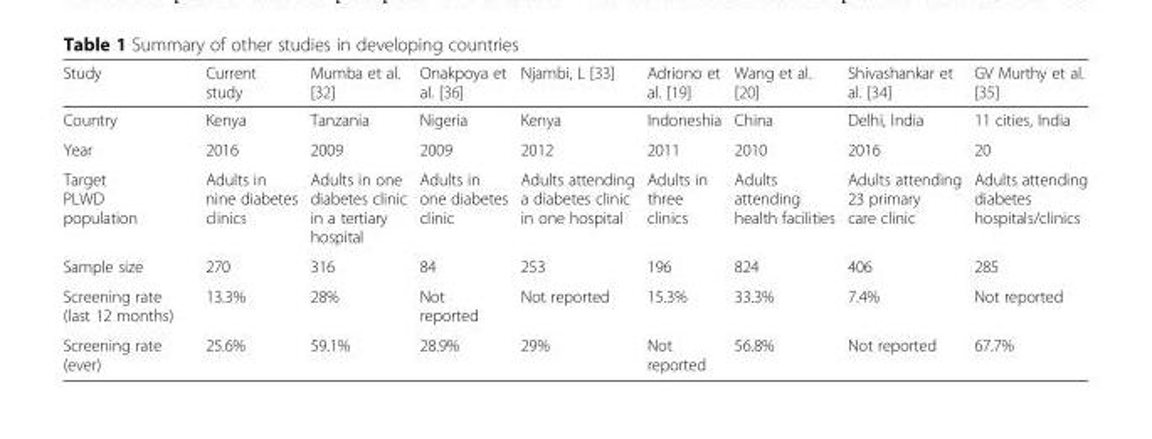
<table><thead><tr><td>Study</td><td>Current study</td><td>Mumba et al. [32]</td><td>Onakpoya et al. [36]</td><td>Njambi, L [33]</td><td>Adriono et al. [19]</td><td>Wang et al. [20]</td><td>Shivashankar et al. [34]</td><td>GV Murthy et al. [35]</td></tr></thead><tbody><tr><td>Country</td><td>Kenya</td><td>Tanzania</td><td>Nigeria</td><td>Kenya</td><td>Indoneshia</td><td>China</td><td>Delhi, India</td><td>11 cities, India</td></tr><tr><td>Year</td><td>2016</td><td>2009</td><td>2009</td><td>2012</td><td>2011</td><td>2010</td><td>2016</td><td>20</td></tr><tr><td>Target PLWD population</td><td>Adults in nine diabetes clinics</td><td>Adults in one diabetes clinic in a tertiary hospital</td><td>Adults in one diabetes clinic</td><td>Adults attending a diabetes clinic in one hospital</td><td>Adults in three clinics</td><td>Adults attending health facilities</td><td>Adults attending 23 primary care clinic</td><td>Adults attending diabetes hospitals/clinics</td></tr><tr><td>Sample size</td><td>270</td><td>316</td><td>84</td><td>253</td><td>196</td><td>824</td><td>406</td><td>285</td></tr><tr><td>Screening rate (last 12 months)</td><td>13.3%</td><td>28%</td><td>Not reported</td><td>Not reported</td><td>15.3%</td><td>33.3%</td><td>7.4%</td><td>Not reported</td></tr><tr><td>Screening rate (ever)</td><td>25.6%</td><td>59.1%</td><td>28.9%</td><td>29%</td><td>Not reported</td><td>56.8%</td><td>Not reported</td><td>67.7%</td></tr></tbody></table>